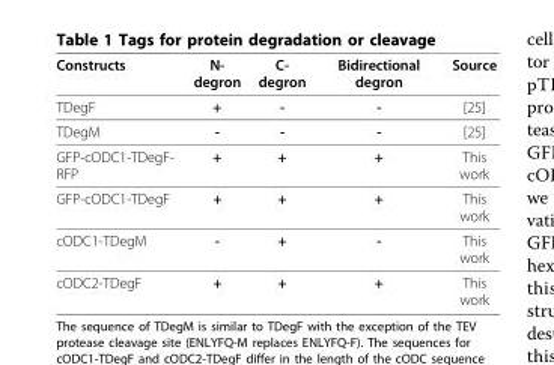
<table><thead><tr><td>Constructs</td><td>N- degron</td><td>C- degron</td><td>Bidirectional degron</td><td>Source</td></tr></thead><tbody><tr><td>TDegF</td><td>+</td><td>-</td><td>-</td><td>[25]</td></tr><tr><td>TDegM</td><td>-</td><td>-</td><td>-</td><td>[25]</td></tr><tr><td>GFP-cODC1-TDegF- RFP</td><td>+</td><td>+</td><td>+</td><td>This work</td></tr><tr><td>GFP-cODC1-TDegF</td><td>+</td><td>+</td><td>+</td><td>This work</td></tr><tr><td>cODC1-TDegM</td><td>-</td><td>+</td><td>-</td><td>This work</td></tr><tr><td>cODC2-TDegF</td><td>+</td><td>+</td><td>+</td><td>This work</td></tr></tbody></table>